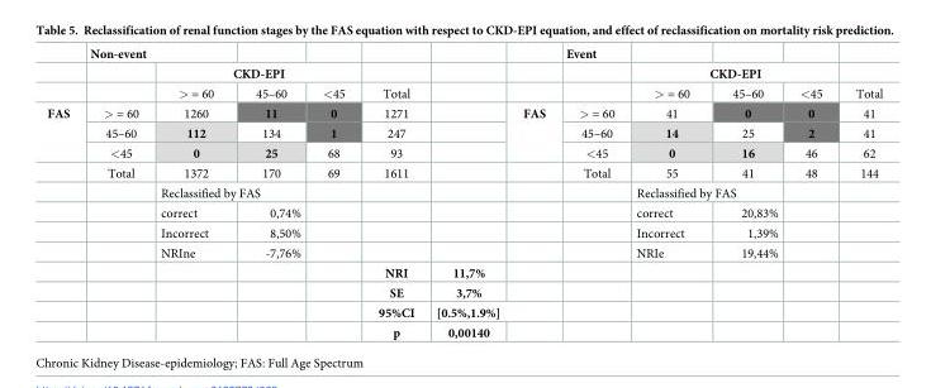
<table><thead><tr><td rowspan="3"></td><td colspan="2">Non-event</td><td></td><td></td><td rowspan="3">Total</td><td rowspan="3"></td><td rowspan="3"></td><td rowspan="3">Event</td><td></td><td></td><td></td><td rowspan="3">Total</td></tr><tr><td rowspan="2"></td><td colspan="3">CKD-EPI</td><td colspan="3">CKD-EPI</td></tr><tr><td>&gt; = 60</td><td>45–60</td><td>&lt;45</td><td>&gt; = 60</td><td>45–60</td><td>&lt;45</td></tr></thead><tbody><tr><td rowspan="12">FAS</td><td>&gt; = 60</td><td>1260</td><td>11</td><td>0</td><td>1271</td><td></td><td rowspan="3">FAS</td><td>&gt; = 60</td><td>41</td><td>0</td><td>0</td><td>41</td></tr><tr><td>45–60</td><td>112</td><td>134</td><td>1</td><td>247</td><td></td><td>45–60</td><td>14</td><td>25</td><td>2</td><td>41</td></tr><tr><td>&lt;45</td><td>0</td><td>25</td><td>68</td><td>93</td><td></td><td>&lt;45</td><td>0</td><td>16</td><td>46</td><td>62</td></tr><tr><td>Total</td><td>1372</td><td>170</td><td>69</td><td>1611</td><td></td><td></td><td>Total</td><td>55</td><td>41</td><td>48</td><td>144</td></tr><tr><td></td><td colspan="2">Reclassified by FAS</td><td></td><td></td><td></td><td></td><td></td><td colspan="2">Reclassified by FAS</td><td></td><td></td></tr><tr><td></td><td>correct</td><td>0,74%</td><td></td><td></td><td></td><td></td><td></td><td>correct</td><td>20,83%</td><td></td><td></td></tr><tr><td></td><td>Incorrect</td><td>8,50%</td><td></td><td></td><td></td><td></td><td></td><td>Incorrect</td><td>1,39%</td><td></td><td></td></tr><tr><td></td><td>NRIne</td><td>-7,76%</td><td></td><td></td><td></td><td></td><td></td><td>NRIe</td><td>19,44%</td><td></td><td></td></tr><tr><td></td><td></td><td></td><td></td><td>NRI</td><td>11,7%</td><td></td><td></td><td></td><td></td><td></td><td></td></tr><tr><td></td><td></td><td></td><td></td><td>SE</td><td>3,7%</td><td></td><td></td><td></td><td></td><td></td><td></td></tr><tr><td></td><td></td><td></td><td></td><td>95%CI</td><td colspan="2">[0.5%,1.9%]</td><td></td><td></td><td></td><td></td><td></td></tr><tr><td></td><td></td><td></td><td></td><td>p</td><td>0,00140</td><td></td><td></td><td></td><td></td><td></td><td></td></tr></tbody></table>